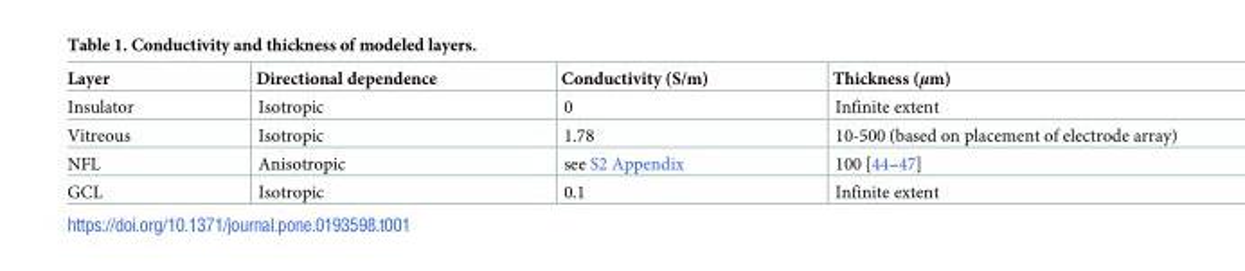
<table><thead><tr><td>Layer</td><td>Directional dependence</td><td>Conductivity (S/m)</td><td>Thickness (μm)</td></tr></thead><tbody><tr><td>Insulator</td><td>Isotropic</td><td>0</td><td>Infinite extent</td></tr><tr><td>Vitreous</td><td>Isotropic</td><td>1.78</td><td>10-500 (based on placement of electrode array)</td></tr><tr><td>NFL</td><td>Anisotropic</td><td>see S2 Appendix</td><td>100 [44–47]</td></tr><tr><td>GCL</td><td>Isotropic</td><td>0.1</td><td>Infinite extent</td></tr></tbody></table>